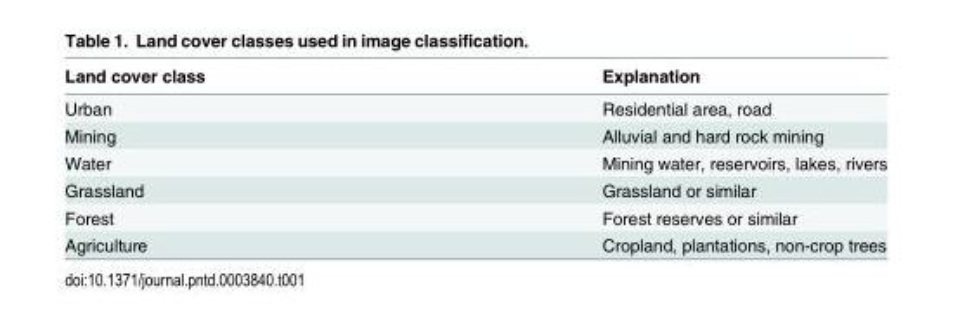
<table><thead><tr><td>Land cover class</td><td>Explanation</td></tr></thead><tbody><tr><td>Urban</td><td>Residential area, road</td></tr><tr><td>Mining</td><td>Alluvial and hard rock mining</td></tr><tr><td>Water</td><td>Mining water, reservoirs, lakes, rivers</td></tr><tr><td>Grassland</td><td>Grassland or similar</td></tr><tr><td>Forest</td><td>Forest reserves or similar</td></tr><tr><td>Agriculture</td><td>Cropland, plantations, non-crop trees</td></tr></tbody></table>